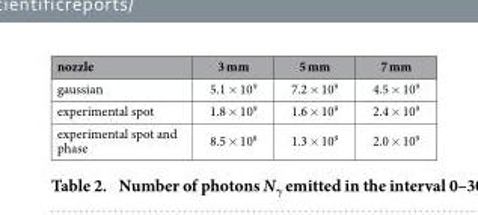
<table><thead><tr><td>nozzle</td><td>3 mm</td><td>5 mm</td><td>7 mm</td></tr></thead><tbody><tr><td>gaussian</td><td>5.1 × 10<sup>9</sup></td><td>7.2 × 10<sup>9</sup></td><td>4.5 × 10<sup>9</sup></td></tr><tr><td>experimental spot</td><td>1.8 × 10<sup>9</sup></td><td>1.6 × 10<sup>9</sup></td><td>2.4 × 10<sup>9</sup></td></tr><tr><td>experimental spot and phase</td><td>8.5 × 10<sup>8</sup></td><td>1.3 × 10<sup>9</sup></td><td>2.0 × 10<sup>9</sup></td></tr></tbody></table>